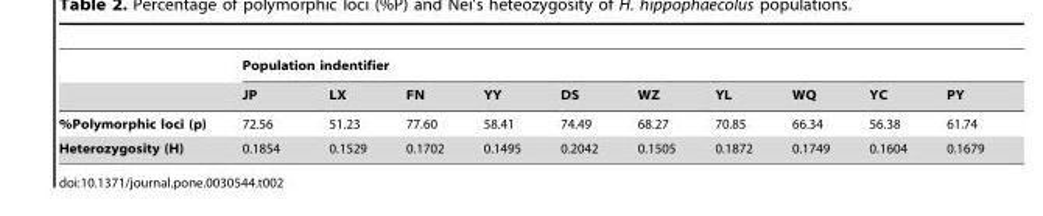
<table><thead><tr><td rowspan="2"></td><td colspan="10">Population indentifier</td></tr><tr><td>JP</td><td>LX</td><td>FN</td><td>YY</td><td>DS</td><td>WZ</td><td>YL</td><td>WQ</td><td>YC</td><td>PY</td></tr></thead><tbody><tr><td>%Polymorphic loci (p)</td><td>72.56</td><td>51.23</td><td>77.60</td><td>58.41</td><td>74.49</td><td>68.27</td><td>70.85</td><td>66.34</td><td>56.38</td><td>61.74</td></tr><tr><td>Heterozygosity (H)</td><td>0.1854</td><td>0.1529</td><td>0.1702</td><td>0.1495</td><td>0.2042</td><td>0.1505</td><td>0.1872</td><td>0.1749</td><td>0.1604</td><td>0.1679</td></tr></tbody></table>